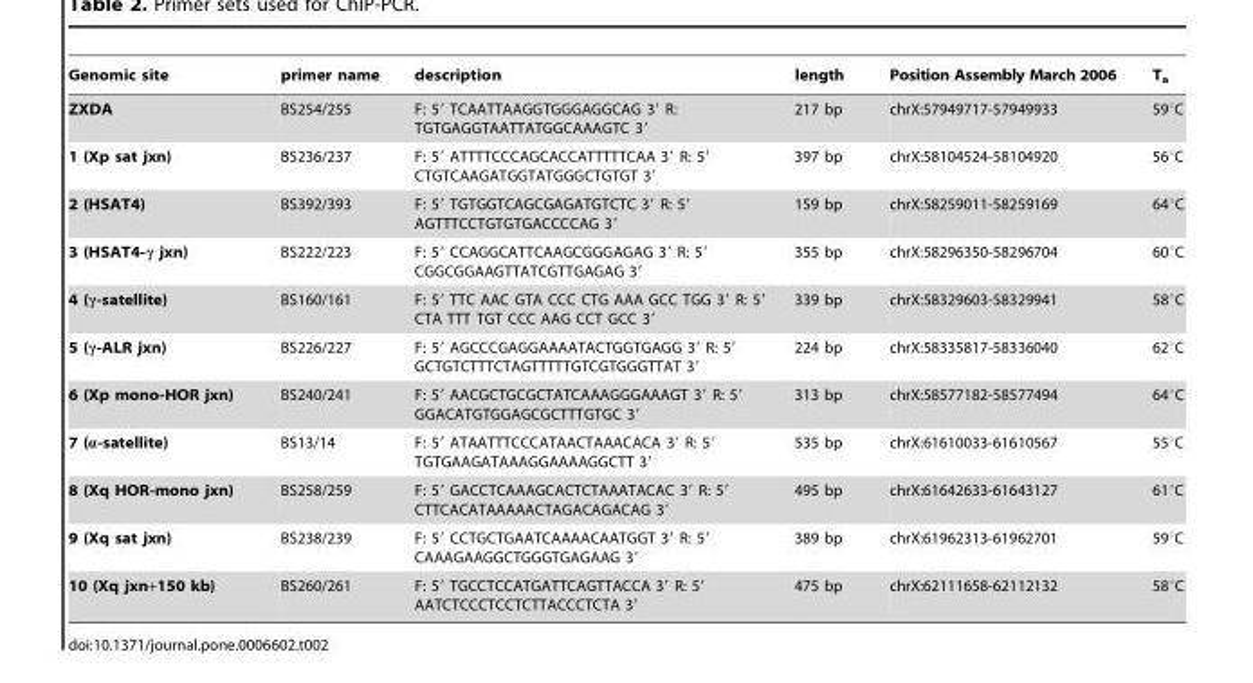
<table><thead><tr><td>Genomic site</td><td>primer name</td><td>description</td><td>length</td><td>Position Assembly March 2006</td><td>T<sub>a</sub></td></tr></thead><tbody><tr><td>ZXDA</td><td>BS254/255</td><td>F: 5′ TCAATTAAGGTGGGAGGCAG 3′ R: TGTGAGGTAATTATGGCAAAGTC 3′</td><td>217 bp</td><td>chrX:57949717-57949933</td><td>59°C</td></tr><tr><td>1 (Xp sat jxn)</td><td>BS236/237</td><td>F: 5′ ATTTTCCCAGCACCATTTTTCAA 3′ R: 5′ CTGTCAAGATGGTATGGGCTGTGT 3′</td><td>397 bp</td><td>chrX:58104524-58104920</td><td>56°C</td></tr><tr><td>2 (HSAT4)</td><td>BS392/393</td><td>F: 5′ TGTGGTCAGCGAGATGTCTC 3′ R: 5′ AGTTTCCTGTGTGACCCCAG 3′</td><td>159 bp</td><td>chrX:58259011-58259169</td><td>64°C</td></tr><tr><td>3 (HSAT4-γ jxn)</td><td>BS222/223</td><td>F: 5′ CCAGGCATTCAAGCGGGAGAG 3′ R: 5′ CGGCGGAAGTTATCGTTGAGAG 3′</td><td>355 bp</td><td>chrX:58296350-58296704</td><td>60°C</td></tr><tr><td>4 (γ-satellite)</td><td>BS160/161</td><td>F: 5′ TTC AAC GTA CCC CTG AAA GCC TGG 3′ R: 5′ CTA TTT TGT CCC AAG CCT GCC 3′</td><td>339 bp</td><td>chrX:58329603-58329941</td><td>58°C</td></tr><tr><td>5 (γ-ALR jxn)</td><td>BS226/227</td><td>F: 5′ AGCCCGAGGAAAATACTGGTGAGG 3′ R: 5′ GCTGTCTTTCTAGTTTTTGTCGTGGGTTAT 3′</td><td>224 bp</td><td>chrX:58335817-58336040</td><td>62°C</td></tr><tr><td>6 (Xp mono-HOR jxn)</td><td>BS240/241</td><td>F: 5′ AACGCTGCGCTATCAAAGGGAAAGT 3′ R: 5′ GGACATGTGGAGCGCTTTGTGC 3′</td><td>313 bp</td><td>chrX:58577182-58577494</td><td>64°C</td></tr><tr><td>7 (α-satellite)</td><td>BS13/14</td><td>F: 5′ ATAATTTCCCATAACTAAACACA 3′ R: 5′ TGTGAAGATAAAGGAAAAGGCTT 3′</td><td>535 bp</td><td>chrX:61610033-61610567</td><td>55°C</td></tr><tr><td>8 (Xq HOR-mono jxn)</td><td>BS258/259</td><td>F: 5′ GACCTCAAAGCACTCTAAATACAC 3′ R: 5′ CTTCACATAAAAACTAGACAGACAG 3′</td><td>495 bp</td><td>chrX:61642633-61643127</td><td>61°C</td></tr><tr><td>9 (Xq sat jxn)</td><td>BS238/239</td><td>F: 5′ CCTGCTGAATCAAAACAATGGT 3′ R: 5′ CAAAGAAGGCTGGGTGAGAAG 3′</td><td>389 bp</td><td>chrX:61962313-61962701</td><td>59°C</td></tr><tr><td>10 (Xq jxn+150 kb)</td><td>BS260/261</td><td>F: 5′ TGCCTCCATGATTCAGTTACCA 3′ R: 5′ AATCTCCCTCCTCTTACCCTCTA 3′</td><td>475 bp</td><td>chrX:62111658-62112132</td><td>58°C</td></tr></tbody></table>